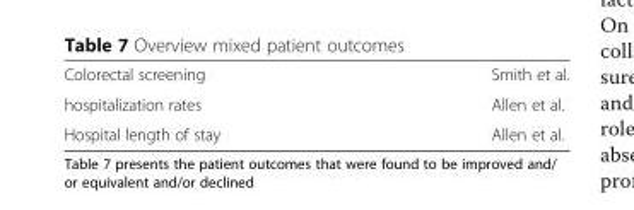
<table><tbody><tr><td>Colorectal screening</td><td>Smith et al.</td></tr><tr><td>hospitalization rates</td><td>Allen et al.</td></tr><tr><td>Hospital length of stay</td><td>Allen et al.</td></tr></tbody></table>